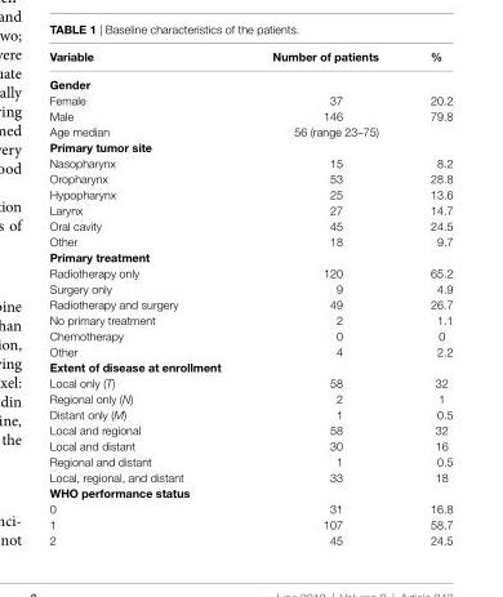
<table><thead><tr><td rowspan="2">Variable Gender</td><td rowspan="2">number of patients</td><td rowspan="2">%</td></tr><tr></tr></thead><tbody><tr><td>Female</td><td>37</td><td>20.2</td></tr><tr><td>Male</td><td>146</td><td>79.8</td></tr><tr><td>Age median</td><td>56 (range 23–75)</td><td></td></tr><tr><td colspan="3">Primary tumor site</td></tr><tr><td>Nasopharynx</td><td>15</td><td>8.2</td></tr><tr><td>Oropharynx</td><td>53</td><td>28.8</td></tr><tr><td>Hypopharynx</td><td>25</td><td>13.6</td></tr><tr><td>Larynx</td><td>27</td><td>14.7</td></tr><tr><td>Oral cavity</td><td>45</td><td>24.5</td></tr><tr><td>Other</td><td>18</td><td>9.7</td></tr><tr><td colspan="3">Primary treatment</td></tr><tr><td>Radiotherapy only</td><td>120</td><td>65.2</td></tr><tr><td>Surgery only</td><td>9</td><td>4.9</td></tr><tr><td>Radiotherapy and surgery</td><td>49</td><td>26.7</td></tr><tr><td>No primary treatment</td><td>2</td><td>1.1</td></tr><tr><td>Chemotherapy</td><td>0</td><td>0</td></tr><tr><td>Other</td><td>4</td><td>2.2</td></tr><tr><td colspan="3">Extent of disease at enrollment</td></tr><tr><td>Local only (T)</td><td>58</td><td>32</td></tr><tr><td>Regional only (N)</td><td>2</td><td>1</td></tr><tr><td>Distant only (M)</td><td>1</td><td>0.5</td></tr><tr><td>Local and regional</td><td>58</td><td>32</td></tr><tr><td>Local and distant</td><td>30</td><td>16</td></tr><tr><td>Regional and distant</td><td>1</td><td>0.5</td></tr><tr><td>Local, regional, and distant</td><td>33</td><td>18</td></tr><tr><td colspan="3">WHO performance status</td></tr><tr><td>0</td><td>31</td><td>16.8</td></tr><tr><td>1</td><td>107</td><td>58.7</td></tr><tr><td>2</td><td>45</td><td>24.5</td></tr></tbody></table>